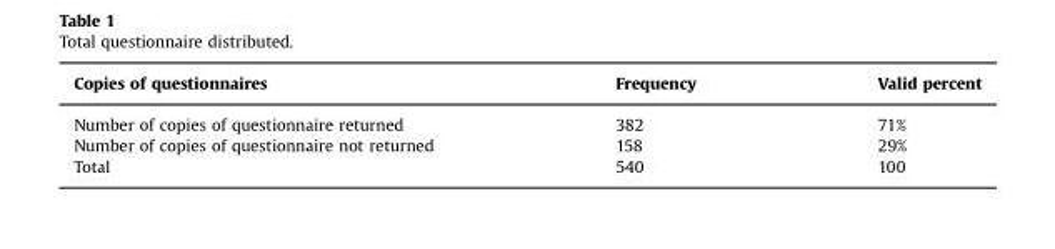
<table><thead><tr><td>Copies of questionnaires</td><td>Frequency</td><td>Valid percent</td></tr></thead><tbody><tr><td>Number of copies of questionnaire returned</td><td>382</td><td>71%</td></tr><tr><td>Number of copies of questionnaire not returned</td><td>158</td><td>29%</td></tr><tr><td>Total</td><td>540</td><td>100</td></tr></tbody></table>